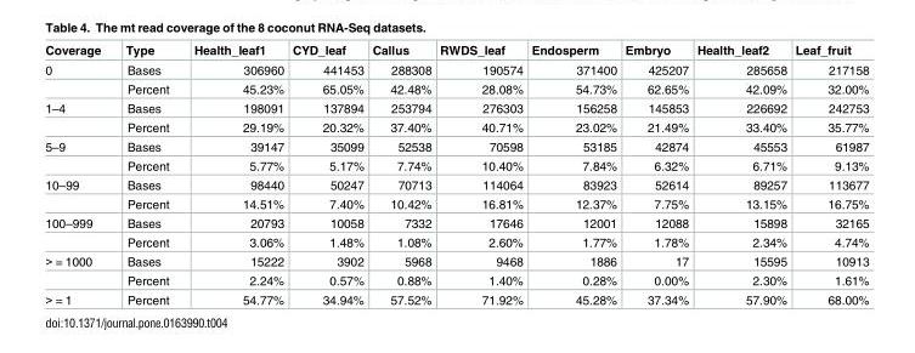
<table><thead><tr><td>Coverage</td><td>Type</td><td>Health_leaf1</td><td>CYD_leaf</td><td>Callus</td><td>RWDS_leaf</td><td>Endosperm</td><td>Embryo</td><td>Health_leaf2</td><td>Leaf_fruit</td></tr></thead><tbody><tr><td rowspan="2">0</td><td>Bases</td><td>306960</td><td>441453</td><td>288308</td><td>190574</td><td>371400</td><td>425207</td><td>285658</td><td>217158</td></tr><tr><td>Percent</td><td>45.23%</td><td>65.05%</td><td>42.48%</td><td>28.08%</td><td>54.73%</td><td>62.65%</td><td>42.09%</td><td>32.00%</td></tr><tr><td rowspan="2">1–4</td><td>Bases</td><td>198091</td><td>137894</td><td>253794</td><td>276303</td><td>156258</td><td>145853</td><td>226692</td><td>242753</td></tr><tr><td>Percent</td><td>29.19%</td><td>20.32%</td><td>37.40%</td><td>40.71%</td><td>23.02%</td><td>21.49%</td><td>33.40%</td><td>35.77%</td></tr><tr><td rowspan="2">5–9</td><td>Bases</td><td>39147</td><td>35099</td><td>52538</td><td>70598</td><td>53185</td><td>42874</td><td>45553</td><td>61987</td></tr><tr><td>Percent</td><td>5.77%</td><td>5.17%</td><td>7.74%</td><td>10.40%</td><td>7.84%</td><td>6.32%</td><td>6.71%</td><td>9.13%</td></tr><tr><td rowspan="2">10–99</td><td>Bases</td><td>98440</td><td>50247</td><td>70713</td><td>114064</td><td>83923</td><td>52614</td><td>89257</td><td>113677</td></tr><tr><td>Percent</td><td>14.51%</td><td>7.40%</td><td>10.42%</td><td>16.81%</td><td>12.37%</td><td>7.75%</td><td>13.15%</td><td>16.75%</td></tr><tr><td rowspan="2">100–999</td><td>Bases</td><td>20793</td><td>10058</td><td>7332</td><td>17646</td><td>12001</td><td>12088</td><td>15898</td><td>32165</td></tr><tr><td>Percent</td><td>3.06%</td><td>1.48%</td><td>1.08%</td><td>2.60%</td><td>1.77%</td><td>1.78%</td><td>2.34%</td><td>4.74%</td></tr><tr><td rowspan="2">&gt; = 1000</td><td>Bases</td><td>15222</td><td>3902</td><td>5968</td><td>9468</td><td>1886</td><td>17</td><td>15595</td><td>10913</td></tr><tr><td>Percent</td><td>2.24%</td><td>0.57%</td><td>0.88%</td><td>1.40%</td><td>0.28%</td><td>0.00%</td><td>2.30%</td><td>1.61%</td></tr><tr><td>&gt; = 1</td><td>Percent</td><td>54.77%</td><td>34.94%</td><td>57.52%</td><td>71.92%</td><td>45.28%</td><td>37.34%</td><td>57.90%</td><td>68.00%</td></tr></tbody></table>